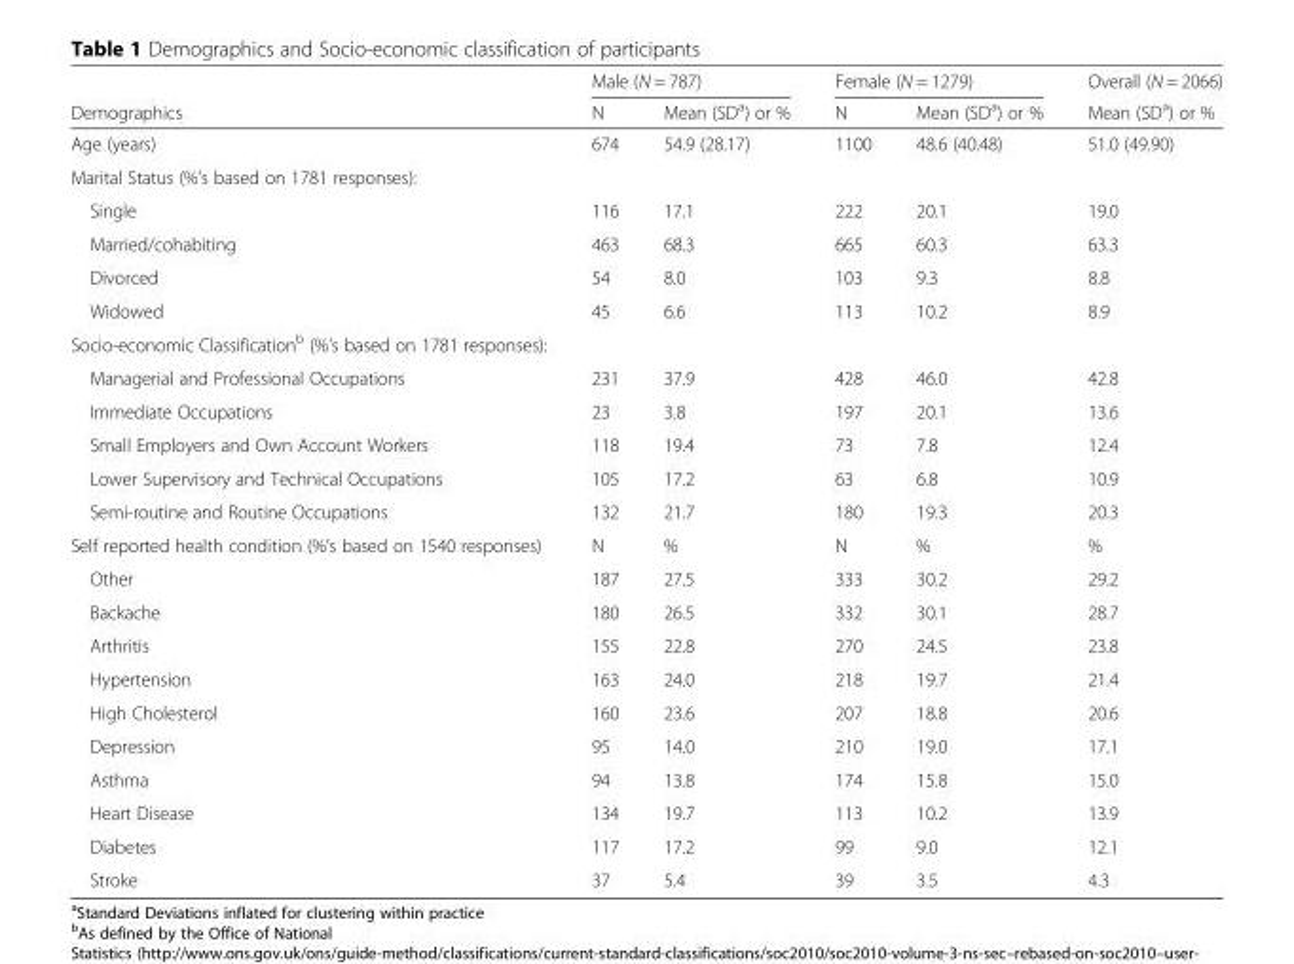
<table><thead><tr><td rowspan="2">Demographics</td><td colspan="2">Male (N = 787)</td><td colspan="2">Female (N = 1279)</td><td rowspan="2">Overall (N = 2066) Mean (SD<sup>a</sup>) or %</td></tr><tr><td>N</td><td>Mean (SD<sup>a</sup>) or %</td><td>N</td><td>Mean (SD<sup>a</sup>) or %</td></tr></thead><tbody><tr><td>Age (years)</td><td>674</td><td>54.9 (28.17)</td><td>1100</td><td>48.6 (40.48)</td><td>51.0 (49.90)</td></tr><tr><td colspan="6">Marital Status (%’s based on 1781 responses):</td></tr><tr><td>Single</td><td>116</td><td>17.1</td><td>222</td><td>20.1</td><td>19.0</td></tr><tr><td>Married/cohabiting</td><td>463</td><td>68.3</td><td>665</td><td>60.3</td><td>63.3</td></tr><tr><td>Divorced</td><td>54</td><td>8.0</td><td>103</td><td>9.3</td><td>8.8</td></tr><tr><td>Widowed</td><td>45</td><td>6.6</td><td>113</td><td>10.2</td><td>8.9</td></tr><tr><td colspan="6">Socio-economic Classification<sup>b</sup> (%’s based on 1781 responses):</td></tr><tr><td>Managerial and Professional Occupations</td><td>231</td><td>37.9</td><td>428</td><td>46.0</td><td>42.8</td></tr><tr><td>Immediate Occupations</td><td>23</td><td>3.8</td><td>197</td><td>20.1</td><td>13.6</td></tr><tr><td>Small Employers and Own Account Workers</td><td>118</td><td>19.4</td><td>73</td><td>7.8</td><td>12.4</td></tr><tr><td>Lower Supervisory and Technical Occupations</td><td>105</td><td>17.2</td><td>63</td><td>6.8</td><td>10.9</td></tr><tr><td>Semi-routine and Routine Occupations</td><td>132</td><td>21.7</td><td>180</td><td>19.3</td><td>20.3</td></tr><tr><td>Self reported health condition (%’s based on 1540 responses)</td><td>N</td><td>%</td><td>N</td><td>%</td><td>%</td></tr><tr><td>Other</td><td>187</td><td>27.5</td><td>333</td><td>30.2</td><td>29.2</td></tr><tr><td>Backache</td><td>180</td><td>26.5</td><td>332</td><td>30.1</td><td>28.7</td></tr><tr><td>Arthritis</td><td>155</td><td>22.8</td><td>270</td><td>24.5</td><td>23.8</td></tr><tr><td>Hypertension</td><td>163</td><td>24.0</td><td>218</td><td>19.7</td><td>21.4</td></tr><tr><td>High Cholesterol</td><td>160</td><td>23.6</td><td>207</td><td>18.8</td><td>20.6</td></tr><tr><td>Depression</td><td>95</td><td>14.0</td><td>210</td><td>19.0</td><td>17.1</td></tr><tr><td>Asthma</td><td>94</td><td>13.8</td><td>174</td><td>15.8</td><td>15.0</td></tr><tr><td>Heart Disease</td><td>134</td><td>19.7</td><td>113</td><td>10.2</td><td>13.9</td></tr><tr><td>Diabetes</td><td>117</td><td>17.2</td><td>99</td><td>9.0</td><td>12.1</td></tr><tr><td>Stroke</td><td>37</td><td>5.4</td><td>39</td><td>3.5</td><td>4.3</td></tr></tbody></table>